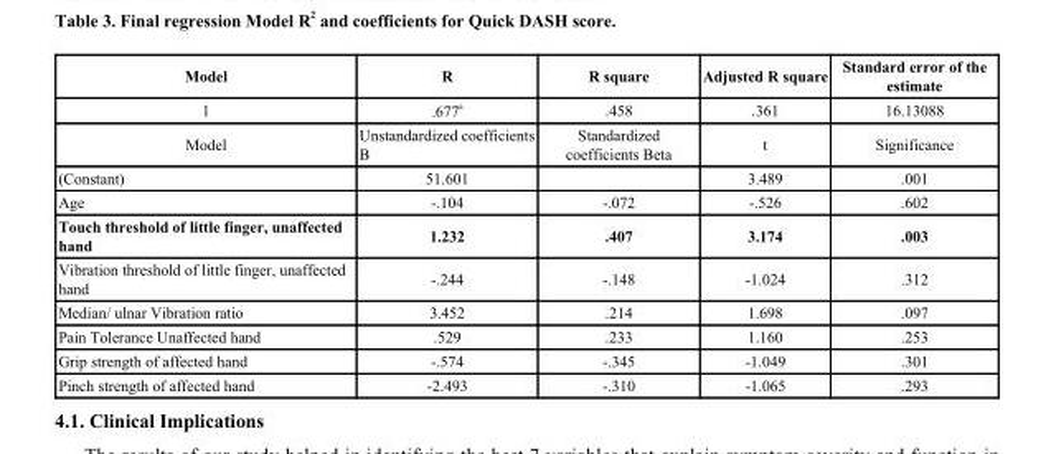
<table><thead><tr><td>Model</td><td>R</td><td>R square</td><td>Adjusted R square</td><td>Standard error of the estimate</td></tr></thead><tbody><tr><td>1</td><td>.677 <sup>a</sup></td><td>.458</td><td>.361</td><td>16.13088</td></tr><tr><td>Model</td><td>Unstandardized coefficients B</td><td>Standardized coefficients Beta</td><td>t</td><td>Significance</td></tr><tr><td>(Constant)</td><td>51.601</td><td></td><td>3.489</td><td>.001</td></tr><tr><td>Age</td><td>-.104</td><td>-.072</td><td>-.526</td><td>.602</td></tr><tr><td>Touch threshold of little finger, unaffected hand</td><td>1.232</td><td>.407</td><td>3.174</td><td>.003</td></tr><tr><td>Vibration threshold of little finger, unaffected hand</td><td>-.244</td><td>-.148</td><td>-1.024</td><td>.312</td></tr><tr><td>Median/ ulnar Vibration ratio</td><td>3.452</td><td>.214</td><td>1.698</td><td>.097</td></tr><tr><td>Pain Tolerance Unaffected hand</td><td>.529</td><td>.233</td><td>1.160</td><td>.253</td></tr><tr><td>Grip strength of affected hand</td><td>-.574</td><td>-.345</td><td>-1.049</td><td>.301</td></tr><tr><td>Pinch strength of affected hand</td><td>-2.493</td><td>-.310</td><td>-1.065</td><td>.293</td></tr></tbody></table>